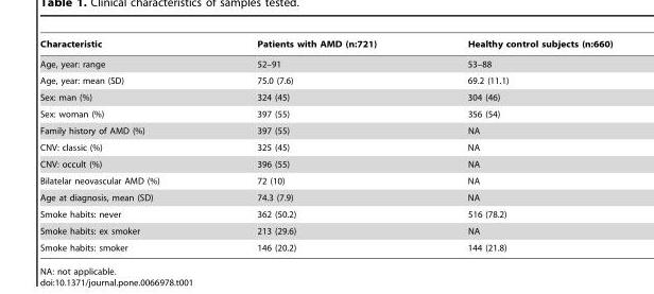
<table><thead><tr><td>Characteristic</td><td>Patients with AMD (n:721)</td><td>Healthy control subjects (n:660)</td></tr></thead><tbody><tr><td>Age, year: range</td><td>52–91</td><td>53–88</td></tr><tr><td>Age, year: mean (SD)</td><td>75.0 (7.6)</td><td>69.2 (11.1)</td></tr><tr><td>Sex: man (%)</td><td>324 (45)</td><td>304 (46)</td></tr><tr><td>Sex: woman (%)</td><td>397 (55)</td><td>356 (54)</td></tr><tr><td>Family history of AMD (%)</td><td>397 (55)</td><td>NA</td></tr><tr><td>CNV: classic (%)</td><td>325 (45)</td><td>NA</td></tr><tr><td>CNV: occult (%)</td><td>396 (55)</td><td>NA</td></tr><tr><td>Bilatelar neovascular AMD (%)</td><td>72 (10)</td><td>NA</td></tr><tr><td>Age at diagnosis, mean (SD)</td><td>74.3 (7.9)</td><td>NA</td></tr><tr><td>Smoke habits: never</td><td>362 (50.2)</td><td>516 (78.2)</td></tr><tr><td>Smoke habits: ex smoker</td><td>213 (29.6)</td><td>NA</td></tr><tr><td>Smoke habits: smoker</td><td>146 (20.2)</td><td>144 (21.8)</td></tr></tbody></table>